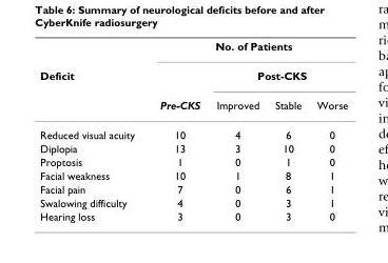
<table><thead><tr><td rowspan="3">Deficit</td><td colspan="4">No. of Patients</td></tr><tr><td rowspan="2">Pre-CKS</td><td colspan="3">Post-CKS</td></tr><tr><td>Improved</td><td>Stable</td><td>Worse</td></tr></thead><tbody><tr><td>Reduced visual acuity</td><td>10</td><td>4</td><td>6</td><td>0</td></tr><tr><td>Diplopia</td><td>13</td><td>3</td><td>10</td><td>0</td></tr><tr><td>Proptosis</td><td>1</td><td>0</td><td>1</td><td>0</td></tr><tr><td>Facial weakness</td><td>10</td><td>1</td><td>8</td><td>1</td></tr><tr><td>Facial pain</td><td>7</td><td>0</td><td>6</td><td>1</td></tr><tr><td>Swalowing difficulty</td><td>4</td><td>0</td><td>3</td><td>1</td></tr><tr><td>Hearing loss</td><td>3</td><td>0</td><td>3</td><td>0</td></tr></tbody></table>